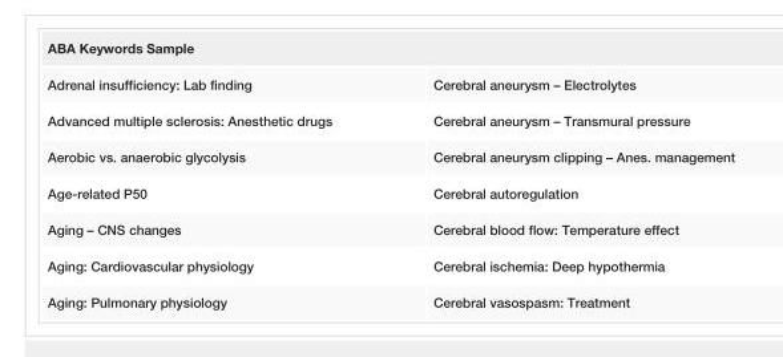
<table><tbody><tr><td colspan="2">ABA Keywords Sample</td></tr><tr><td>Adrenal insufficiency: Lab finding</td><td>Cerebral aneurysm – Electrolytes</td></tr><tr><td>Advanced multiple sclerosis: Anesthetic drugs</td><td>Cerebral aneurysm – Transmural pressure</td></tr><tr><td>Aerobic vs. anaerobic glycolysis</td><td>Cerebral aneurysm clipping – Anes. management</td></tr><tr><td>Age-related P50</td><td>Cerebral autoregulation</td></tr><tr><td>Aging – CNS changes</td><td>Cerebral blood flow: Temperature effect</td></tr><tr><td>Aging: Cardiovascular physiology</td><td>Cerebral ischemia: Deep hypothermia</td></tr><tr><td>Aging: Pulmonary physiology</td><td>Cerebral vasospasm: Treatment</td></tr></tbody></table>